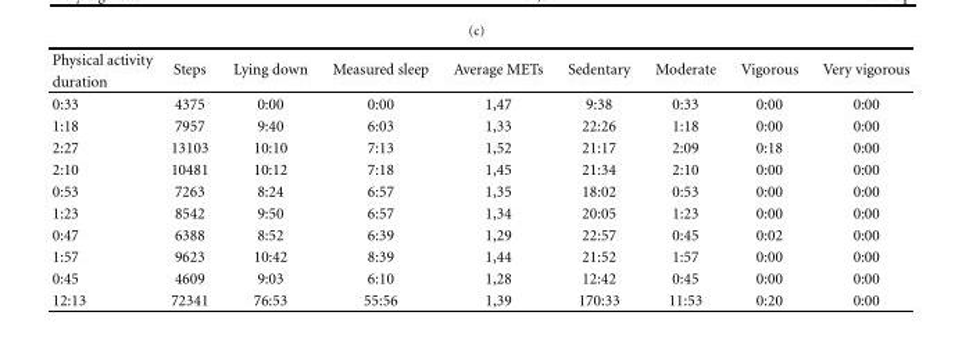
<table><thead><tr><td rowspan="2">Physical activity duration</td><td rowspan="2">Steps</td><td rowspan="2">Lying down</td><td rowspan="2">Measured sleep</td><td rowspan="2">Average METs</td><td rowspan="2">Sedentary</td><td rowspan="2">Moderate</td><td rowspan="2">Vigorous</td><td rowspan="2">Very vigorous</td></tr><tr></tr></thead><tbody><tr><td>0:33</td><td>4375</td><td>0:00</td><td>0:00</td><td>1,47</td><td>9:38</td><td>0:33</td><td>0:00</td><td>0:00</td></tr><tr><td>1:18</td><td>7957</td><td>9:40</td><td>6:03</td><td>1,33</td><td>22:26</td><td>1:18</td><td>0:00</td><td>0:00</td></tr><tr><td>2:27</td><td>13103</td><td>10:10</td><td>7:13</td><td>1,52</td><td>21:17</td><td>2:09</td><td>0:18</td><td>0:00</td></tr><tr><td>2:10</td><td>10481</td><td>10:12</td><td>7:18</td><td>1,45</td><td>21:34</td><td>2:10</td><td>0:00</td><td>0:00</td></tr><tr><td>0:53</td><td>7263</td><td>8:24</td><td>6:57</td><td>1,35</td><td>18:02</td><td>0:53</td><td>0:00</td><td>0:00</td></tr><tr><td>1:23</td><td>8542</td><td>9:50</td><td>6:57</td><td>1,34</td><td>20:05</td><td>1:23</td><td>0:00</td><td>0:00</td></tr><tr><td>0:47</td><td>6388</td><td>8:52</td><td>6:39</td><td>1,29</td><td>22:57</td><td>0:45</td><td>0:02</td><td>0:00</td></tr><tr><td>1:57</td><td>9623</td><td>10:42</td><td>8:39</td><td>1,44</td><td>21:52</td><td>1:57</td><td>0:00</td><td>0:00</td></tr><tr><td>0:45</td><td>4609</td><td>9:03</td><td>6:10</td><td>1,28</td><td>12:42</td><td>0:45</td><td>0:00</td><td>0:00</td></tr><tr><td>12:13</td><td>72341</td><td>76:53</td><td>55:56</td><td>1,39</td><td>170:33</td><td>11:53</td><td>0:20</td><td>0:00</td></tr></tbody></table>